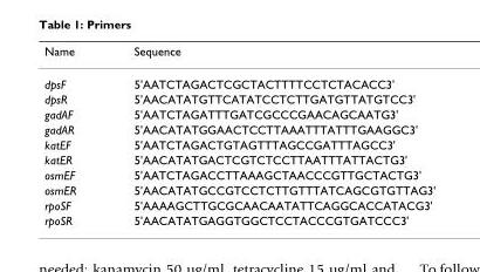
<table><thead><tr><td>Name</td><td>Sequence</td></tr></thead><tbody><tr><td>dpsF</td><td>5&#x27;AATCTAGACTCGCTACTTTTCCTCTACACC3&#x27;</td></tr><tr><td>dpsR</td><td>5&#x27;AACATATGTTCATATCCTCTTGATGTTATGTCC3&#x27;</td></tr><tr><td>gadAF</td><td>5&#x27;AATCTAGATTTGATCGCCCGAACAGCAATG3&#x27;</td></tr><tr><td>gadAR</td><td>5&#x27;AACATATGGAACTCCTTAAATTTATTTGAAGGC3&#x27;</td></tr><tr><td>katEF</td><td>5&#x27;AATCTAGACTGTAGTTTAGCCGATTTAGCC3&#x27;</td></tr><tr><td>katER</td><td>5&#x27;AACATATGACTCGTCTCCTTAATTTATTACTG3&#x27;</td></tr><tr><td>osmEF</td><td>5&#x27;AATCTAGACCTTAAAGCTAACCCGTTGCTACTG3&#x27;</td></tr><tr><td>osmER</td><td>5&#x27;AACATATGCCGTCCTCTTGTTTATCAGCGTGTTAG3&#x27;</td></tr><tr><td>rpoSF</td><td>5&#x27;AAAAGCTTGCGCAACAATATTCAGGCACCATACG3&#x27;</td></tr><tr><td>rpoSR</td><td>5&#x27;AACATATGAGGTGGCTCCTACCCGTGATCCC3&#x27;</td></tr></tbody></table>